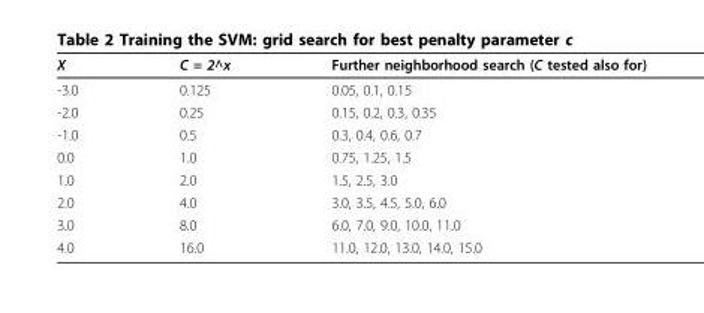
<table><thead><tr><td>X</td><td>C = 2^x</td><td>Further neighborhood search (C tested also for)</td></tr></thead><tbody><tr><td>-3.0</td><td>0.125</td><td>0.05, 0.1, 0.15</td></tr><tr><td>-2.0</td><td>0.25</td><td>0.15, 0.2, 0.3, 0.35</td></tr><tr><td>-1.0</td><td>0.5</td><td>0.3, 0.4, 0.6, 0.7</td></tr><tr><td>0.0</td><td>1.0</td><td>0.75, 1.25, 1.5</td></tr><tr><td>1.0</td><td>2.0</td><td>1.5, 2.5, 3.0</td></tr><tr><td>2.0</td><td>4.0</td><td>3.0, 3.5, 4.5, 5.0, 6.0</td></tr><tr><td>3.0</td><td>8.0</td><td>6.0, 7.0, 9.0, 10.0, 11.0</td></tr><tr><td>4.0</td><td>16.0</td><td>11.0, 12.0, 13.0, 14.0, 15.0</td></tr></tbody></table>